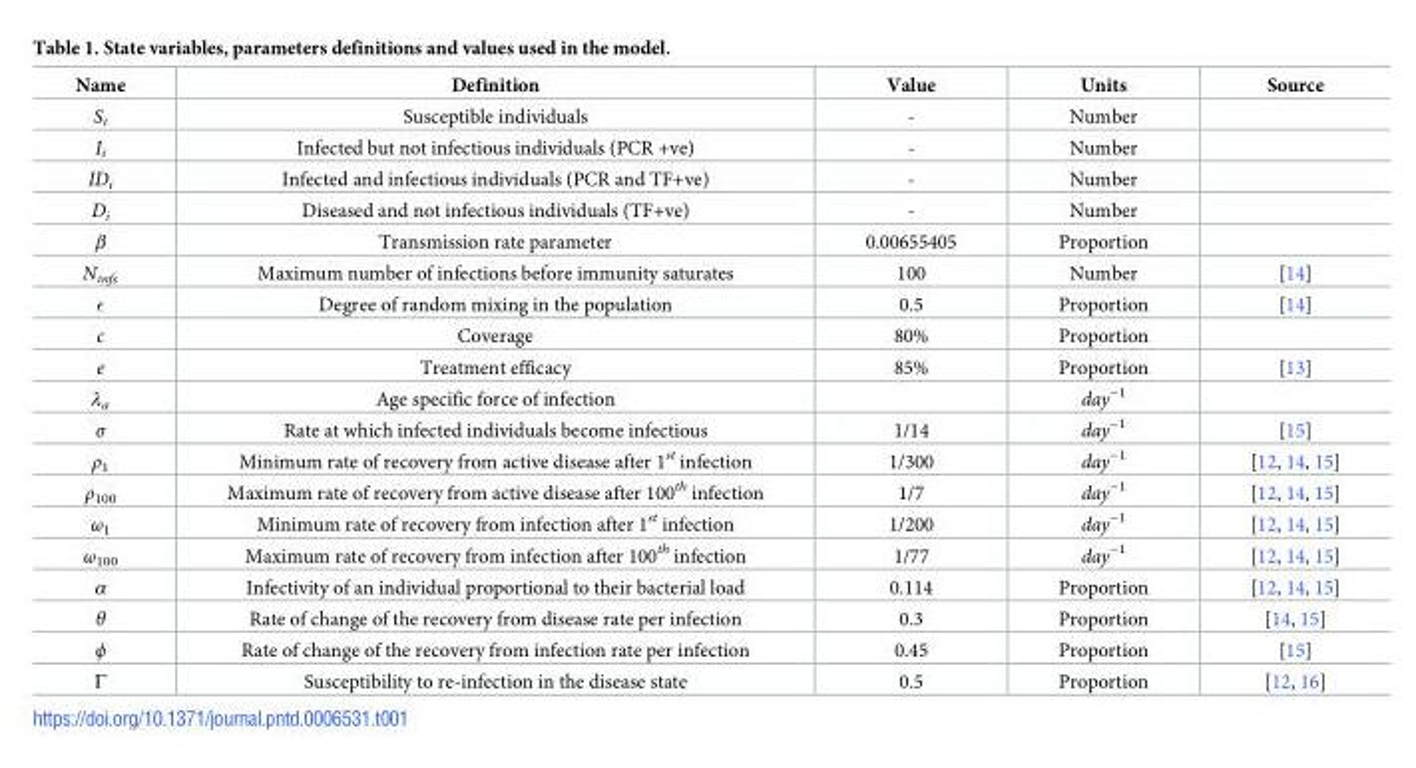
<table><thead><tr><td>Name</td><td>Definition</td><td>Value</td><td>Units</td><td>Source</td></tr></thead><tbody><tr><td>S<sub>i</sub></td><td>Susceptible individuals</td><td>-</td><td>Number</td><td></td></tr><tr><td>I<sub>i</sub></td><td>Infected but not infectious individuals (PCR +ve)</td><td>-</td><td>Number</td><td></td></tr><tr><td>ID<sub>i</sub></td><td>Infected and infectious individuals (PCR and TF+ve)</td><td>-</td><td>Number</td><td></td></tr><tr><td>D<sub>i</sub></td><td>Diseased and not infectious individuals (TF+ve)</td><td>-</td><td>Number</td><td></td></tr><tr><td>β</td><td>Transmission rate parameter</td><td>0.00655405</td><td>Proportion</td><td></td></tr><tr><td>N<sub>infs</sub></td><td>Maximum number of infections before immunity saturates</td><td>100</td><td>Number</td><td>[14]</td></tr><tr><td>ϵ</td><td>Degree of random mixing in the population</td><td>0.5</td><td>Proportion</td><td>[14]</td></tr><tr><td>c</td><td>Coverage</td><td>80%</td><td>Proportion</td><td></td></tr><tr><td>e</td><td>Treatment efficacy</td><td>85%</td><td>Proportion</td><td>[13]</td></tr><tr><td>λ<sub>a</sub></td><td>Age specific force of infection</td><td></td><td>day<sup>−1</sup></td><td></td></tr><tr><td>σ</td><td>Rate at which infected individuals become infectious</td><td>1/14</td><td>day<sup>−1</sup></td><td>[15]</td></tr><tr><td>ρ<sub>1</sub></td><td>Minimum rate of recovery from active disease after 1<sup>st</sup> infection</td><td>1/300</td><td>day<sup>−1</sup></td><td>[12, 14, 15]</td></tr><tr><td>ρ<sub>100</sub></td><td>Maximum rate of recovery from active disease after 100<sup>th</sup> infection</td><td>1/7</td><td>day<sup>−1</sup></td><td>[12, 14, 15]</td></tr><tr><td>ω<sub>1</sub></td><td>Minimum rate of recovery from infection after 1<sup>st</sup> infection</td><td>1/200</td><td>day<sup>−1</sup></td><td>[12, 14, 15]</td></tr><tr><td>ω<sub>100</sub></td><td>Maximum rate of recovery from infection after 100<sup>th</sup> infection</td><td>1/77</td><td>day<sup>−1</sup></td><td>[12, 14, 15]</td></tr><tr><td>α</td><td>Infectivity of an individual proportional to their bacterial load</td><td>0.114</td><td>Proportion</td><td>[12, 14, 15]</td></tr><tr><td>θ</td><td>Rate of change of the recovery from disease rate per infection</td><td>0.3</td><td>Proportion</td><td>[14, 15]</td></tr><tr><td>ϕ</td><td>Rate of change of the recovery from infection rate per infection</td><td>0.45</td><td>Proportion</td><td>[15]</td></tr><tr><td>Γ</td><td>Susceptibility to re-infection in the disease state</td><td>0.5</td><td>Proportion</td><td>[12, 16]</td></tr></tbody></table>